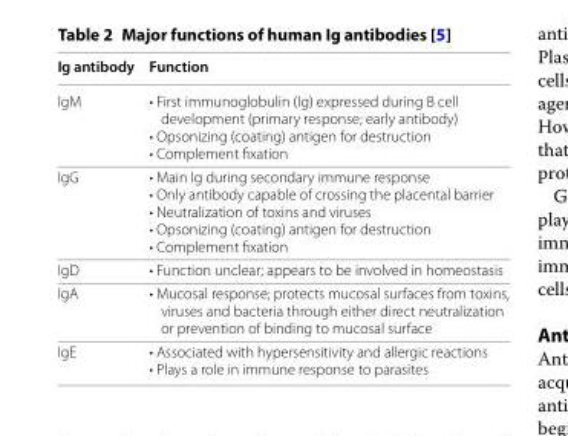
<table><thead><tr><td>Ig antibody</td><td>Function</td></tr></thead><tbody><tr><td>IgM</td><td>• First immunoglobulin (Ig) expressed during B cell development (primary response; early antibody) • Opsonizing (coating) antigen for destruction • Complement fixation</td></tr><tr><td>IgG</td><td>• Main Ig during secondary immune response • Only antibody capable of crossing the placental barrier • Neutralization of toxins and viruses • Opsonizing (coating) antigen for destruction • Complement fixation</td></tr><tr><td>IgD</td><td>• Function unclear; appears to be involved in homeostasis</td></tr><tr><td>IgA</td><td>• Mucosal response; protects mucosal surfaces from toxins, viruses and bacteria through either direct neutralization or prevention of binding to mucosal surface</td></tr><tr><td>IgE</td><td>• Associated with hypersensitivity and allergic reactions • Plays a role in immune response to parasites</td></tr></tbody></table>